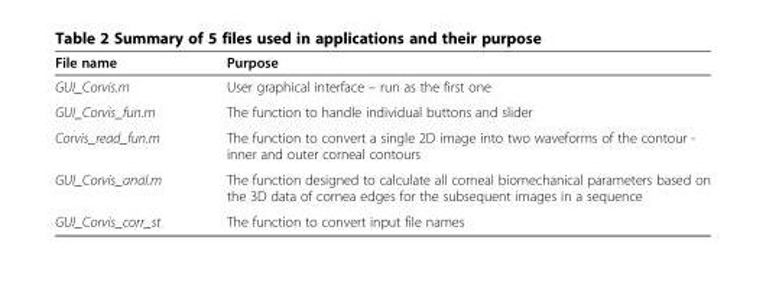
<table><thead><tr><td>File name</td><td>Purpose</td></tr></thead><tbody><tr><td>GUI_Corvis.m</td><td>User graphical interface – run as the first one</td></tr><tr><td>GUI_Corvis_fun.m</td><td>The function to handle individual buttons and slider</td></tr><tr><td>Corvis_read_fun.m</td><td>The function to convert a single 2D image into two waveforms of the contour - inner and outer corneal contours</td></tr><tr><td>GUI_Corvis_anal.m</td><td>The function designed to calculate all corneal biomechanical parameters based on the 3D data of cornea edges for the subsequent images in a sequence</td></tr><tr><td>GUI_Corvis_corr_st</td><td>The function to convert input file names</td></tr></tbody></table>